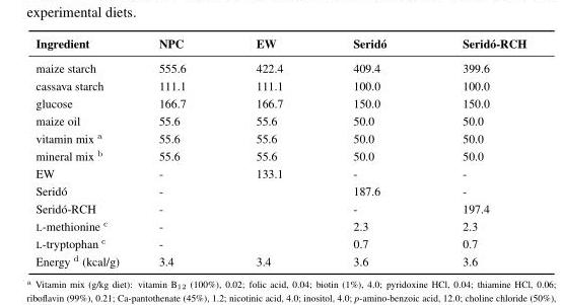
<table><thead><tr><td>Ingredient</td><td>NPC</td><td>EW</td><td>Seridó</td><td>Seridó-RCH</td></tr></thead><tbody><tr><td>maize starch</td><td>555.6</td><td>422.4</td><td>409.4</td><td>399.6</td></tr><tr><td>cassava starch</td><td>111.1</td><td>111.1</td><td>100.0</td><td>100.0</td></tr><tr><td>glucose</td><td>166.7</td><td>166.7</td><td>150.0</td><td>150.0</td></tr><tr><td>maize oil</td><td>55.6</td><td>55.6</td><td>50.0</td><td>50.0</td></tr><tr><td>vitamin mix <sup>a</sup></td><td>55.6</td><td>55.6</td><td>50.0</td><td>50.0</td></tr><tr><td>mineral mix <sup>b</sup></td><td>55.6</td><td>55.6</td><td>50.0</td><td>50.0</td></tr><tr><td>EW</td><td>-</td><td>133.1</td><td>-</td><td>-</td></tr><tr><td>Seridó</td><td>-</td><td></td><td>187.6</td><td>-</td></tr><tr><td>Seridó-RCH</td><td>-</td><td></td><td>-</td><td>197.4</td></tr><tr><td>L-methionine <sup>c</sup></td><td>-</td><td></td><td>2.3</td><td>2.3</td></tr><tr><td>L-tryptophan <sup>c</sup></td><td>-</td><td></td><td>0.7</td><td>0.7</td></tr><tr><td>Energy <sup>d</sup> (kcal/g)</td><td>3.4</td><td>3.4</td><td>3.6</td><td>3.6</td></tr></tbody></table>